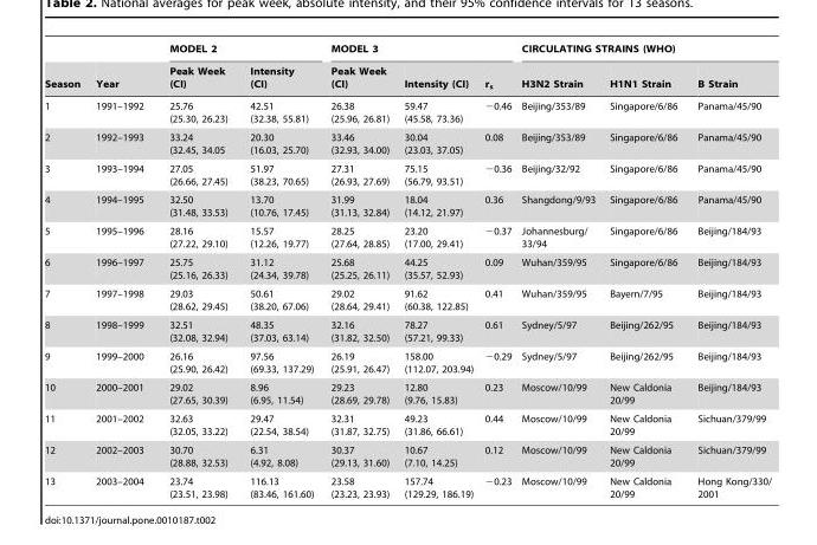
<table><thead><tr><td rowspan="2">Season</td><td rowspan="2">Year</td><td colspan="2">MODEL 2</td><td colspan="3">MODEL 3</td><td colspan="3">CIRCULATING STRAINS (WHO)</td></tr><tr><td>Peak Week (CI)</td><td>Intensity (CI)</td><td>Peak Week (CI)</td><td>Intensity (CI)</td><td>r<sub>s</sub></td><td>H3N2 Strain</td><td>H1N1 Strain</td><td>B Strain</td></tr></thead><tbody><tr><td>1</td><td>1991–1992</td><td>25.76 (25.30, 26.23)</td><td>42.51 (32.38, 55.81)</td><td>26.38 (25.96, 26.81)</td><td>59.47 (45.58, 73.36)</td><td>−0.46</td><td>Beijing/353/89</td><td>Singapore/6/86</td><td>Panama/45/90</td></tr><tr><td>2</td><td>1992–1993</td><td>33.24 (32.45, 34.05</td><td>20.30 (16.03, 25.70)</td><td>33.46 (32.93, 34.00)</td><td>30.04 (23.03, 37.05)</td><td>0.08</td><td>Beijing/353/89</td><td>Singapore/6/86</td><td>Panama/45/90</td></tr><tr><td>3</td><td>1993–1994</td><td>27.05 (26.66, 27.45)</td><td>51.97 (38.23, 70.65)</td><td>27.31 (26.93, 27.69)</td><td>75.15 (56.79, 93.51)</td><td>−0.36</td><td>Beijing/32/92</td><td>Singapore/6/86</td><td>Panama/45/90</td></tr><tr><td>4</td><td>1994–1995</td><td>32.50 (31.48, 33.53)</td><td>13.70 (10.76, 17.45)</td><td>31.99 (31.13, 32.84)</td><td>18.04 (14.12, 21.97)</td><td>0.36</td><td>Shangdong/9/93</td><td>Singapore/6/86</td><td>Panama/45/90</td></tr><tr><td>5</td><td>1995–1996</td><td>28.16 (27.22, 29.10)</td><td>15.57 (12.26, 19.77)</td><td>28.25 (27.64, 28.85)</td><td>23.20 (17.00, 29.41)</td><td>−0.37</td><td>Johannesburg/ 33/94</td><td>Singapore/6/86</td><td>Beijing/184/93</td></tr><tr><td>6</td><td>1996–1997</td><td>25.75 (25.16, 26.33)</td><td>31.12 (24.34, 39.78)</td><td>25.68 (25.25, 26.11)</td><td>44.25 (35.57, 52.93)</td><td>0.09</td><td>Wuhan/359/95</td><td>Singapore/6/86</td><td>Beijing/184/93</td></tr><tr><td>7</td><td>1997–1998</td><td>29.03 (28.62, 29.45)</td><td>50.61 (38.20, 67.06)</td><td>29.02 (28.64, 29.41)</td><td>91.62 (60.38, 122.85)</td><td>0.41</td><td>Wuhan/359/95</td><td>Bayern/7/95</td><td>Beijing/184/93</td></tr><tr><td>8</td><td>1998–1999</td><td>32.51 (32.08, 32.94)</td><td>48.35 (37.03, 63.14)</td><td>32.16 (31.82, 32.50)</td><td>78.27 (57.21, 99.33)</td><td>0.61</td><td>Sydney/5/97</td><td>Beijing/262/95</td><td>Beijing/184/93</td></tr><tr><td>9</td><td>1999–2000</td><td>26.16 (25.90, 26.42)</td><td>97.56 (69.33, 137.29)</td><td>26.19 (25.91, 26.47)</td><td>158.00 (112.07, 203.94)</td><td>−0.29</td><td>Sydney/5/97</td><td>Beijing/262/95</td><td>Beijing/184/93</td></tr><tr><td>10</td><td>2000–2001</td><td>29.02 (27.65, 30.39)</td><td>8.96 (6.95, 11.54)</td><td>29.23 (28.69, 29.78)</td><td>12.80 (9.76, 15.83)</td><td>0.23</td><td>Moscow/10/99</td><td>New Caldonia 20/99</td><td>Beijing/184/93</td></tr><tr><td>11</td><td>2001–2002</td><td>32.63 (32.05, 33.22)</td><td>29.47 (22.54, 38.54)</td><td>32.31 (31.87, 32.75)</td><td>49.23 (31.86, 66.61)</td><td>0.44</td><td>Moscow/10/99</td><td>New Caldonia 20/99</td><td>Sichuan/379/99</td></tr><tr><td>12</td><td>2002–2003</td><td>30.70 (28.88, 32.53)</td><td>6.31 (4.92, 8.08)</td><td>30.37 (29.13, 31.60)</td><td>10.67 (7.10, 14.25)</td><td>0.12</td><td>Moscow/10/99</td><td>New Caldonia 20/99</td><td>Sichuan/379/99</td></tr><tr><td>13</td><td>2003–2004</td><td>23.74 (23.51, 23.98)</td><td>116.13 (83.46, 161.60)</td><td>23.58 (23.23, 23.93)</td><td>157.74 (129.29, 186.19)</td><td>−0.23</td><td>Moscow/10/99</td><td>New Caldonia 20/99</td><td>Hong Kong/330/ 2001</td></tr></tbody></table>